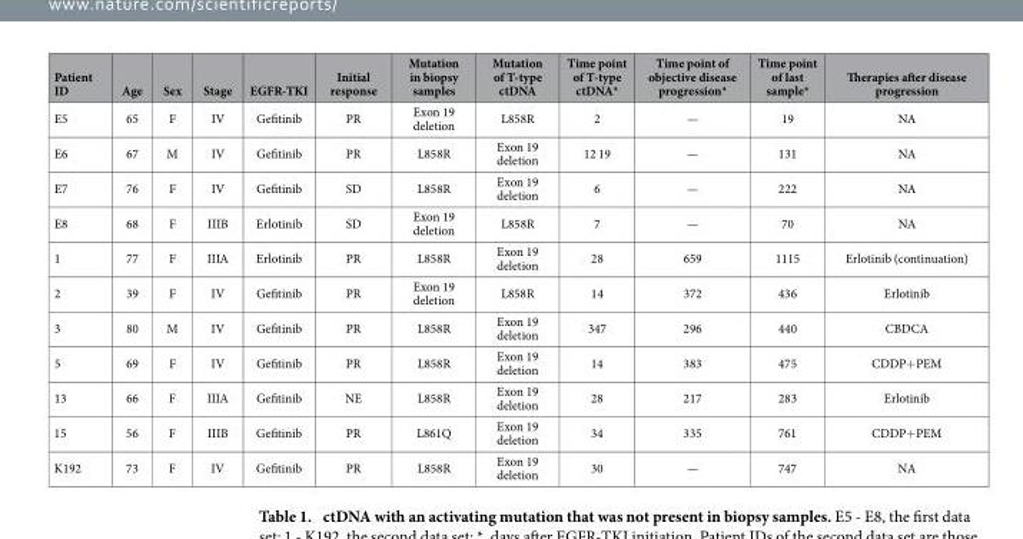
<table><thead><tr><td>Patient ID</td><td>Age</td><td>Sex</td><td>Stage</td><td>EGFR-TKI</td><td>Initial response</td><td>Mutation in biopsy samples</td><td>Mutation of T-type ctDNA</td><td>Time point of T-type ctDNA*</td><td>Time point of objective disease progression*</td><td>Time point of last sample*</td><td>Therapies after disease progression</td></tr></thead><tbody><tr><td>E5</td><td>65</td><td>F</td><td>IV</td><td>Gefitinib</td><td>PR</td><td>Exon 19 deletion</td><td>L858R</td><td>2</td><td>—</td><td>19</td><td>NA</td></tr><tr><td>E6</td><td>67</td><td>M</td><td>IV</td><td>Gefitinib</td><td>PR</td><td>L858R</td><td>Exon 19 deletion</td><td>12 19</td><td>—</td><td>131</td><td>NA</td></tr><tr><td>E7</td><td>76</td><td>F</td><td>IV</td><td>Gefitinib</td><td>SD</td><td>L858R</td><td>Exon 19 deletion</td><td>6</td><td>—</td><td>222</td><td>NA</td></tr><tr><td>E8</td><td>68</td><td>F</td><td>IIIB</td><td>Erlotinib</td><td>SD</td><td>Exon 19 deletion</td><td>L858R</td><td>7</td><td>—</td><td>70</td><td>NA</td></tr><tr><td>1</td><td>77</td><td>F</td><td>IIIA</td><td>Erlotinib</td><td>PR</td><td>L858R</td><td>Exon 19 deletion</td><td>28</td><td>659</td><td>1115</td><td>Erlotinib (continuation)</td></tr><tr><td>2</td><td>39</td><td>F</td><td>IV</td><td>Gefitinib</td><td>PR</td><td>Exon 19 deletion</td><td>L858R</td><td>14</td><td>372</td><td>436</td><td>Erlotinib</td></tr><tr><td>3</td><td>80</td><td>M</td><td>IV</td><td>Gefitinib</td><td>PR</td><td>L858R</td><td>Exon 19 deletion</td><td>347</td><td>296</td><td>440</td><td>CBDCA</td></tr><tr><td>5</td><td>69</td><td>F</td><td>IV</td><td>Gefitinib</td><td>PR</td><td>L858R</td><td>Exon 19 deletion</td><td>14</td><td>383</td><td>475</td><td>CDDP+ PEM</td></tr><tr><td>13</td><td>66</td><td>F</td><td>IIIA</td><td>Gefitinib</td><td>NE</td><td>L858R</td><td>Exon 19 deletion</td><td>28</td><td>217</td><td>283</td><td>Erlotinib</td></tr><tr><td>15</td><td>56</td><td>F</td><td>IIIB</td><td>Gefitinib</td><td>PR</td><td>L861Q</td><td>Exon 19 deletion</td><td>34</td><td>335</td><td>761</td><td>CDDP+ PEM</td></tr><tr><td>K192</td><td>73</td><td>F</td><td>IV</td><td>Gefitinib</td><td>PR</td><td>L858R</td><td>Exon 19 deletion</td><td>30</td><td>—</td><td>747</td><td>NA</td></tr></tbody></table>